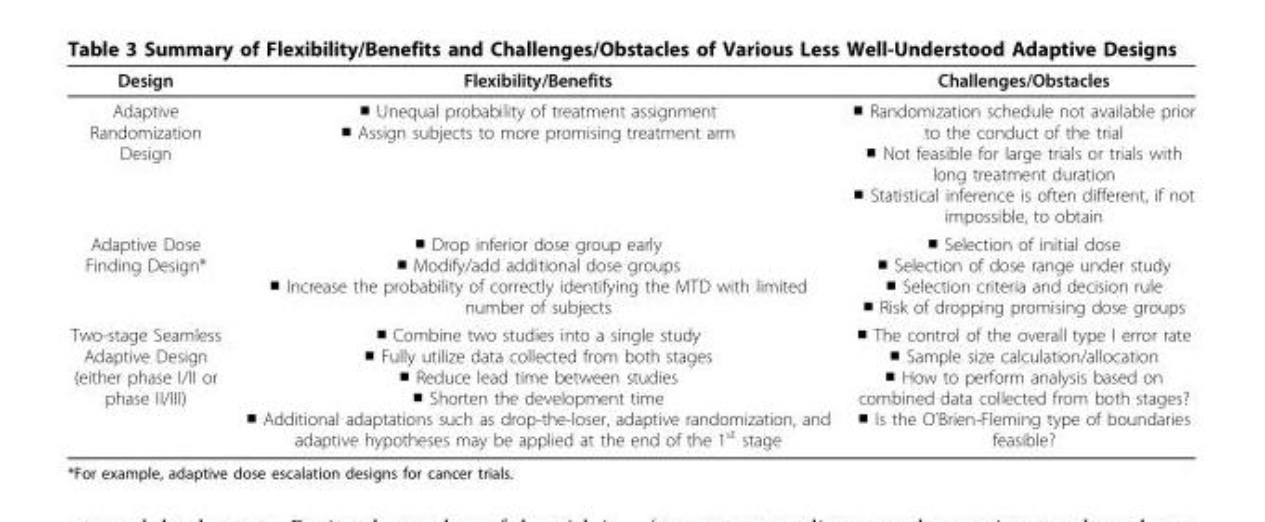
<table><thead><tr><td>Design</td><td>Flexibility/Benefits</td><td>Challenges/Obstacles</td></tr></thead><tbody><tr><td>Adaptive Randomization Design</td><td>■ Unequal probability of treatment assignment ■ Assign subjects to more promising treatment arm</td><td>■ Randomization schedule not available prior to the conduct of the trial ■ Not feasible for large trials or trials with long treatment duration ■ Statistical inference is often different, if not impossible, to obtain</td></tr><tr><td>Adaptive Dose Finding Design*</td><td>■ Drop inferior dose group early ■ Modify/add additional dose groups ■ Increase the probability of correctly identifying the MTD with limited number of subjects</td><td>■ Selection of initial dose ■ Selection of dose range under study ■ Selection criteria and decision rule ■ Risk of dropping promising dose groups</td></tr><tr><td>Two-stage Seamless Adaptive Design (either phase I/II or phase II/III)</td><td>■ Combine two studies into a single study ■ Fully utilize data collected from both stages ■ Reduce lead time between studies ■ Shorten the development time ■ Additional adaptations such as drop-the-loser, adaptive randomization, and adaptive hypotheses may be applied at the end of the 1<sup>st</sup> stage</td><td>■ The control of the overall type I error rate ■ Sample size calculation/allocation ■ How to perform analysis based on combined data collected from both stages? ■ Is the O’Brien-Fleming type of boundaries feasible?</td></tr></tbody></table>